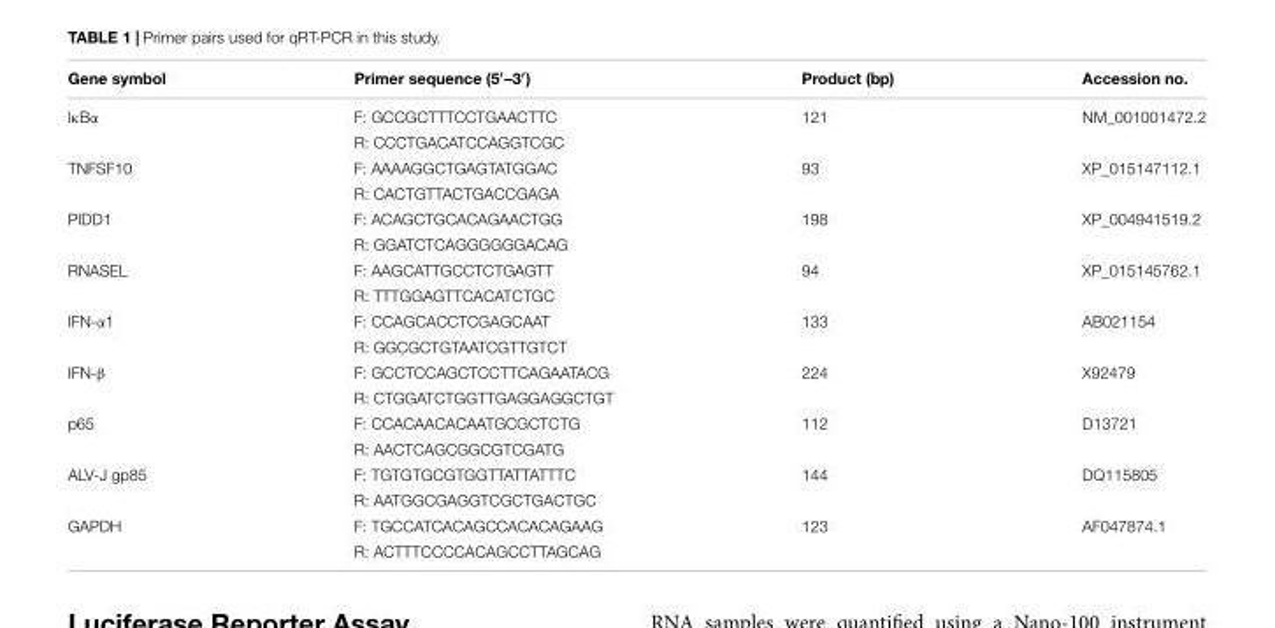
<table><thead><tr><td>Gene symbol</td><td>Primer sequence (5′–3′)</td><td>Product (bp)</td><td>Accession no.</td></tr></thead><tbody><tr><td rowspan="2">IκBα</td><td>F: GCCGCTTTCCTGAACTTC</td><td>121</td><td>NM_001001472.2</td></tr><tr><td>R: CCCTGACATCCAGGTCGC</td><td></td><td></td></tr><tr><td rowspan="2">TNFSF10</td><td>F: AAAAGGCTGAGTATGGAC</td><td>93</td><td>XP_015147112.1</td></tr><tr><td>R: CACTGTTACTGACCGAGA</td><td></td><td></td></tr><tr><td rowspan="2">PIDD1</td><td>F: ACAGCTGCACAGAACTGG</td><td>198</td><td>XP_004941519.2</td></tr><tr><td>R: GGATCTCAGGGGGGACAG</td><td></td><td></td></tr><tr><td rowspan="2">RNASEL</td><td>F: AAGCATTGCCTCTGAGTT</td><td>94</td><td>XP_015145762.1</td></tr><tr><td>R: TTTGGAGTTCACATCTGC</td><td></td><td></td></tr><tr><td rowspan="2">IFN-α1</td><td>F: CCAGCACCTCGAGCAAT</td><td>133</td><td>AB021154</td></tr><tr><td>R: GGCGCTGTAATCGTTGTCT</td><td></td><td></td></tr><tr><td rowspan="2">IFN-β</td><td>F: GCCTCCAGCTCCTTCAGAATACG</td><td>224</td><td>X92479</td></tr><tr><td>R: CTGGATCTGGTTGAGGAGGCTGT</td><td></td><td></td></tr><tr><td rowspan="2">p65</td><td>F: CCACAACACAATGCGCTCTG</td><td>112</td><td>D13721</td></tr><tr><td>R: AACTCAGCGGCGTCGATG</td><td></td><td></td></tr><tr><td rowspan="2">ALV-J gp85</td><td>F: TGTGTGCGTGGTTATTATTTC</td><td>144</td><td>DQ115805</td></tr><tr><td>R: AATGGCGAGGTCGCTGACTGC</td><td></td><td></td></tr><tr><td rowspan="2">GAPDH</td><td>F: TGCCATCACAGCCACACAGAAG</td><td>123</td><td>AF047874.1</td></tr><tr><td>R: ACTTTCCCCACAGCCTTAGCAG</td><td></td><td></td></tr></tbody></table>